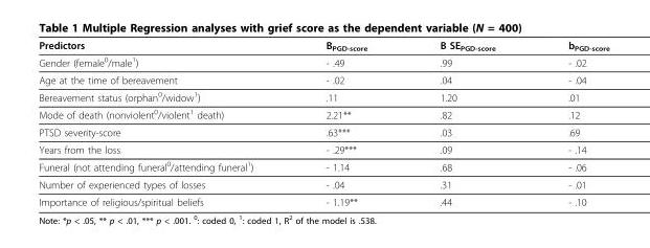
<table><thead><tr><td>Predictors</td><td>B<sub>PGD-score</sub></td><td>B SE<sub>PGD-score</sub></td><td>b<sub>PGD-score</sub></td></tr></thead><tbody><tr><td>Gender (female<sup>0</sup>/male<sup>1</sup>)</td><td>- .49</td><td>.99</td><td>- .02</td></tr><tr><td>Age at the time of bereavement</td><td>- .02</td><td>.04</td><td>- .04</td></tr><tr><td>Bereavement status (orphan<sup>0</sup>/widow<sup>1</sup>)</td><td>.11</td><td>1.20</td><td>.01</td></tr><tr><td>Mode of death (nonviolent<sup>0</sup>/violent<sup>1</sup> death)</td><td>2.21**</td><td>.82</td><td>.12</td></tr><tr><td>PTSD severity-score</td><td>.63***</td><td>.03</td><td>.69</td></tr><tr><td>Years from the loss</td><td>- .29***</td><td>.09</td><td>- .14</td></tr><tr><td>Funeral (not attending funeral<sup>0</sup>/attending funeral<sup>1</sup>)</td><td>- 1.14</td><td>.68</td><td>- .06</td></tr><tr><td>Number of experienced types of losses</td><td>- .04</td><td>.31</td><td>- .01</td></tr><tr><td>Importance of religious/spiritual beliefs</td><td>- 1.19**</td><td>.44</td><td>- .10</td></tr></tbody></table>